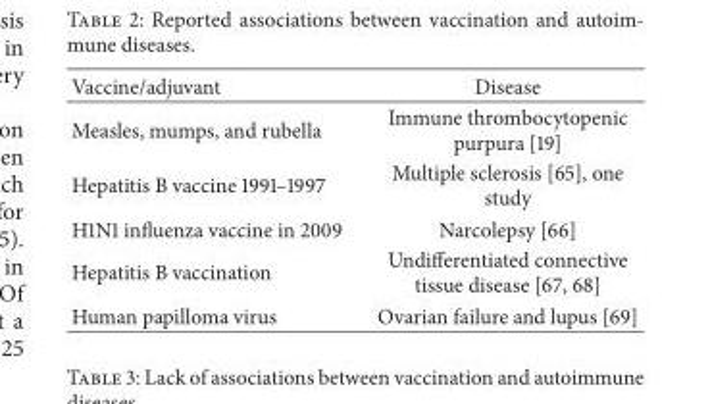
<table><thead><tr><td>Vaccine/adjuvant</td><td>Disease</td></tr></thead><tbody><tr><td>Measles, mumps, and rubella</td><td>Immune thrombocytopenic purpura [19]</td></tr><tr><td>Hepatitis B vaccine 1991–1997</td><td>Multiple sclerosis [65], one study</td></tr><tr><td>H1N1 influenza vaccine in 2009</td><td>Narcolepsy [66]</td></tr><tr><td>Hepatitis B vaccination</td><td>Undifferentiated connective tissue disease [67, 68]</td></tr><tr><td>Human papilloma virus</td><td>Ovarian failure and lupus [69]</td></tr></tbody></table>